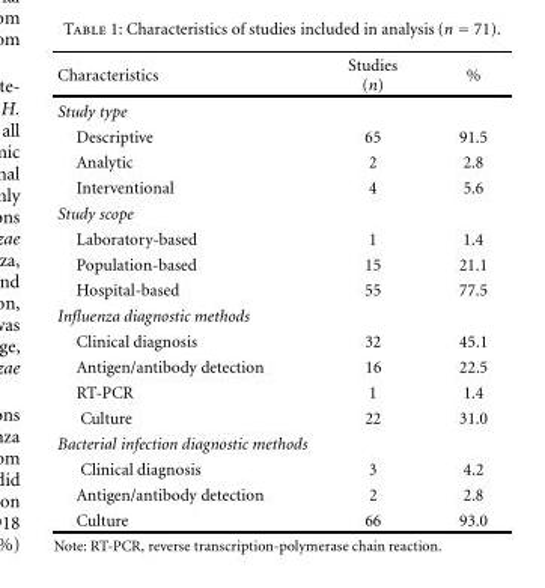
<table><thead><tr><td>Characteristics</td><td>Studies (n)</td><td>%</td></tr></thead><tbody><tr><td colspan="3">Study type</td></tr><tr><td>Descriptive</td><td>65</td><td>91.5</td></tr><tr><td>Analytic</td><td>2</td><td>2.8</td></tr><tr><td>Interventional</td><td>4</td><td>5.6</td></tr><tr><td colspan="3">Study scope</td></tr><tr><td>Laboratory-based</td><td>1</td><td>1.4</td></tr><tr><td>Population-based</td><td>15</td><td>21.1</td></tr><tr><td>Hospital-based</td><td>55</td><td>77.5</td></tr><tr><td colspan="3">Influenza diagnostic methods</td></tr><tr><td>Clinical diagnosis</td><td>32</td><td>45.1</td></tr><tr><td>Antigen/antibody detection</td><td>16</td><td>22.5</td></tr><tr><td>RT-PCR</td><td>1</td><td>1.4</td></tr><tr><td>Culture</td><td>22</td><td>31.0</td></tr><tr><td colspan="3">Bacterial infection diagnostic methods</td></tr><tr><td>Clinical diagnosis</td><td>3</td><td>4.2</td></tr><tr><td>Antigen/antibody detection</td><td>2</td><td>2.8</td></tr><tr><td>Culture</td><td>66</td><td>93.0</td></tr></tbody></table>